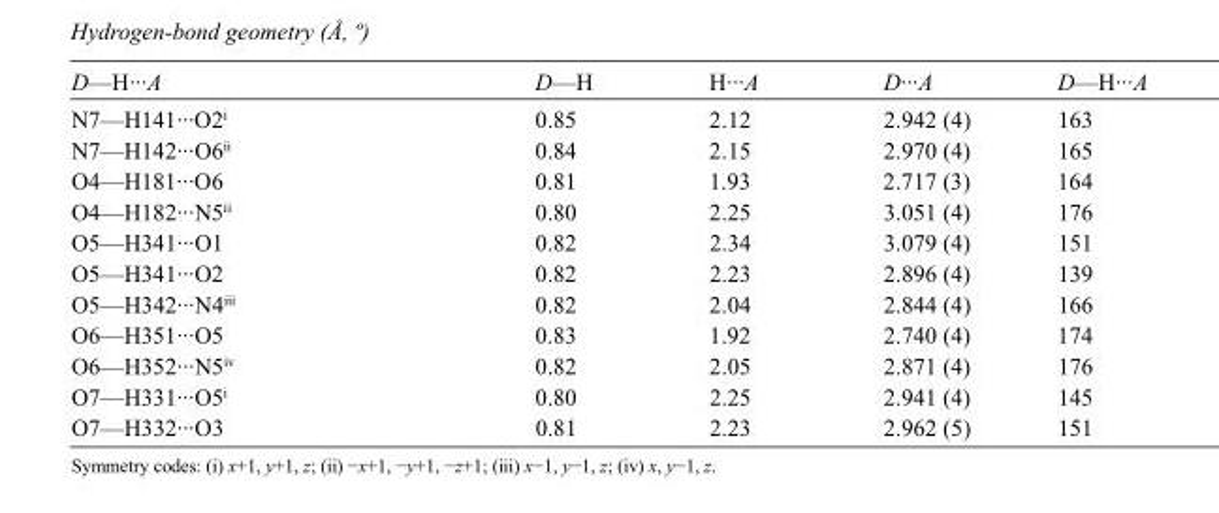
<table><tbody><tr><td>D—H···A</td><td>D—H</td><td>H···A</td><td>D···A</td><td>D—H···A</td></tr><tr><td>N7—H141···O2<sup>i</sup></td><td>0.85</td><td>2.12</td><td>2.942 (4)</td><td>163</td></tr><tr><td>N7—H142···O6<sup>ii</sup></td><td>0.84</td><td>2.15</td><td>2.970 (4)</td><td>165</td></tr><tr><td>O4—H181···O6</td><td>0.81</td><td>1.93</td><td>2.717 (3)</td><td>164</td></tr><tr><td>O4—H182···N5<sup>ii</sup></td><td>0.80</td><td>2.25</td><td>3.051 (4)</td><td>176</td></tr><tr><td>O5—H341···O1</td><td>0.82</td><td>2.34</td><td>3.079 (4)</td><td>151</td></tr><tr><td>O5—H341···O2</td><td>0.82</td><td>2.23</td><td>2.896 (4)</td><td>139</td></tr><tr><td>O5—H342···N4<sup>iii</sup></td><td>0.82</td><td>2.04</td><td>2.844 (4)</td><td>166</td></tr><tr><td>O6—H351···O5</td><td>0.83</td><td>1.92</td><td>2.740 (4)</td><td>174</td></tr><tr><td>O6—H352···N5<sup>iv</sup></td><td>0.82</td><td>2.05</td><td>2.871 (4)</td><td>176</td></tr><tr><td>O7—H331···O5<sup>i</sup></td><td>0.80</td><td>2.25</td><td>2.941 (4)</td><td>145</td></tr><tr><td>O7—H332···O3</td><td>0.81</td><td>2.23</td><td>2.962 (5)</td><td>151</td></tr></tbody></table>